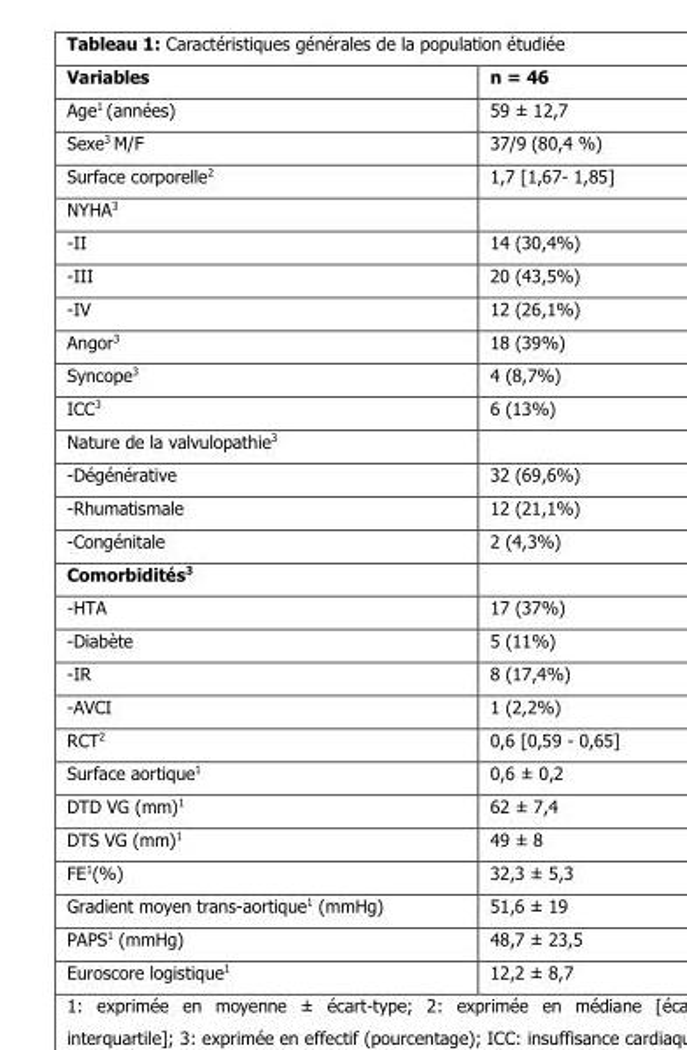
<table><thead><tr><td>Variables</td><td>n = 46</td></tr></thead><tbody><tr><td>Age<sup>1</sup> (années)</td><td>59 ± 12,7</td></tr><tr><td>Sexe<sup>3</sup> M/F</td><td>37/9 (80,4 %)</td></tr><tr><td>Surface corporelle<sup>2</sup></td><td>1,7 [1,67- 1,85]</td></tr><tr><td colspan="2">NYHA<sup>3</sup></td></tr><tr><td>-II</td><td>14 (30,4%)</td></tr><tr><td>-III</td><td>20 (43,5%)</td></tr><tr><td>-IV</td><td>12 (26,1%)</td></tr><tr><td>Angor<sup>3</sup></td><td>18 (39%)</td></tr><tr><td>Syncope<sup>3</sup></td><td>4 (8,7%)</td></tr><tr><td>ICC<sup>3</sup></td><td>6 (13%)</td></tr><tr><td colspan="2">Nature de la valvulopathie<sup>3</sup></td></tr><tr><td>-Dégénérative</td><td>32 (69,6%)</td></tr><tr><td>-Rhumatismale</td><td>12 (21,1%)</td></tr><tr><td>-Congénitale</td><td>2 (4,3%)</td></tr><tr><td colspan="2">Comorbidités<sup>3</sup></td></tr><tr><td>-HTA</td><td>17 (37%)</td></tr><tr><td>-Diabète</td><td>5 (11%)</td></tr><tr><td>-IR</td><td>8 (17,4%)</td></tr><tr><td>-AVCI</td><td>1 (2,2%)</td></tr><tr><td>RCT<sup>2</sup></td><td>0,6 [0,59 - 0,65]</td></tr><tr><td>Surface aortique<sup>1</sup></td><td>0,6 ± 0,2</td></tr><tr><td>DTD VG (mm)<sup>1</sup></td><td>62 ± 7,4</td></tr><tr><td>DTS VG (mm)<sup>1</sup></td><td>49 ± 8</td></tr><tr><td>FE<sup>1</sup>(%)</td><td>32,3 ± 5,3</td></tr><tr><td>Gradient moyen trans-aortique<sup>1</sup> (mmHg)</td><td>51,6 ± 19</td></tr><tr><td>PAPS<sup>1</sup> (mmHg)</td><td>48,7 ± 23,5</td></tr><tr><td>Euroscore logistique<sup>1</sup></td><td>12,2 ± 8,7</td></tr></tbody></table>